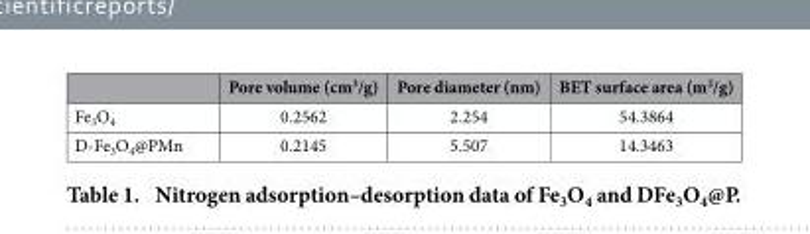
<table><thead><tr><td></td><td>Pore volume (cm<sup>3</sup>/g)</td><td>Pore diameter (nm)</td><td>BET surface area (m<sup>2</sup>/g)</td></tr></thead><tbody><tr><td>Fe<sub>3</sub>O<sub>4</sub></td><td>0.2562</td><td>2.254</td><td>54.3864</td></tr><tr><td>D-Fe<sub>3</sub>O<sub>4</sub>@PMn</td><td>0.2145</td><td>5.507</td><td>14.3463</td></tr></tbody></table>